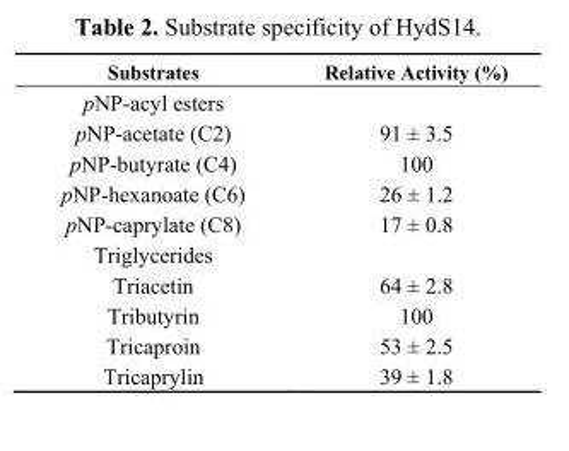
<table><thead><tr><td>Substrates</td><td>Relative Activity (%)</td></tr></thead><tbody><tr><td colspan="2">pNP-acyl esters</td></tr><tr><td>pNP-acetate (C2)</td><td>91 ± 3.5</td></tr><tr><td>pNP-butyrate (C4)</td><td>100</td></tr><tr><td>pNP-hexanoate (C6)</td><td>26 ± 1.2</td></tr><tr><td>pNP-caprylate (C8)</td><td>17 ± 0.8</td></tr><tr><td colspan="2">Triglycerides</td></tr><tr><td>Triacetin</td><td>64 ± 2.8</td></tr><tr><td>Tributyrin</td><td>100</td></tr><tr><td>Tricaproin</td><td>53 ± 2.5</td></tr><tr><td>Tricaprylin</td><td>39 ± 1.8</td></tr></tbody></table>